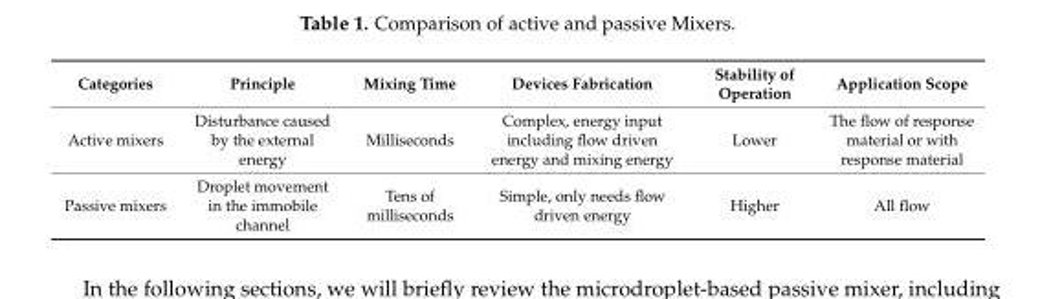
<table><thead><tr><td>Categories</td><td>Principle</td><td>Mixing Time</td><td>Devices Fabrication</td><td>Stability of Operation</td><td>Application Scope</td></tr></thead><tbody><tr><td>Active mixers</td><td>Disturbance caused by the external energy</td><td>Milliseconds</td><td>Complex, energy input including flow driven energy and mixing energy</td><td>Lower</td><td>The flow of response material or with response material</td></tr><tr><td>Passive mixers</td><td>Droplet movement in the immobile channel</td><td>Tens of milliseconds</td><td>Simple, only needs flow driven energy</td><td>Higher</td><td>All flow</td></tr></tbody></table>